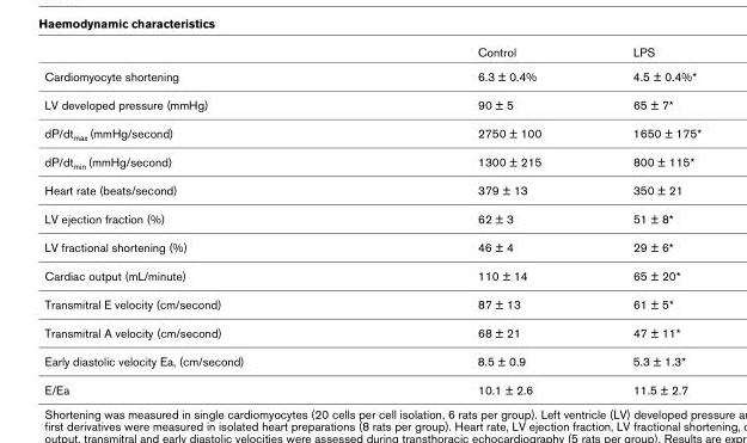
<table><thead><tr><td></td><td>Control</td><td>LPS</td></tr></thead><tbody><tr><td>Cardiomyocyte shortening</td><td>6.3 ± 0.4%</td><td>4.5 ± 0.4%*</td></tr><tr><td>LV developed pressure (mmHg)</td><td>90 ± 5</td><td>65 ± 7*</td></tr><tr><td>dP/dt<sub>max</sub> (mmHg/second)</td><td>2750 ± 100</td><td>1650 ± 175*</td></tr><tr><td>dP/dt<sub>min</sub> (mmHg/second)</td><td>1300 ± 215</td><td>800 ± 115*</td></tr><tr><td>Heart rate (beats/second)</td><td>379 ± 13</td><td>350 ± 21</td></tr><tr><td>LV ejection fraction (%)</td><td>62 ± 3</td><td>51 ± 8*</td></tr><tr><td>LV fractional shortening (%)</td><td>46 ± 4</td><td>29 ± 6*</td></tr><tr><td>Cardiac output (mL/minute)</td><td>110 ± 14</td><td>65 ± 20*</td></tr><tr><td>Transmitral E velocity (cm/second)</td><td>87 ± 13</td><td>61 ± 5*</td></tr><tr><td>Transmitral A velocity (cm/second)</td><td>68 ± 21</td><td>47 ± 11*</td></tr><tr><td>Early diastolic velocity Ea, (cm/second)</td><td>8.5 ± 0.9</td><td>5.3 ± 1.3*</td></tr><tr><td>E/Ea</td><td>10.1 ± 2.6</td><td>11.5 ± 2.7</td></tr></tbody></table>